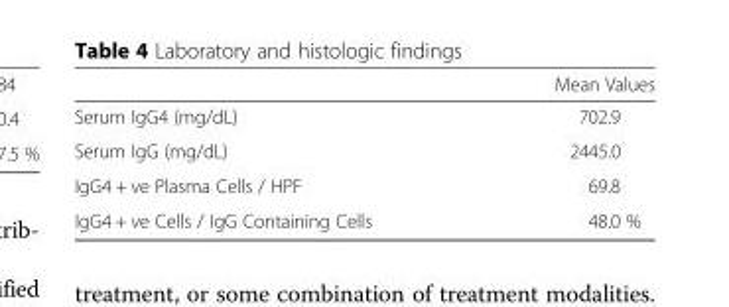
<table><thead><tr><td></td><td>Mean Values</td></tr></thead><tbody><tr><td>Serum IgG4 (mg/dL)</td><td>702.9</td></tr><tr><td>Serum IgG (mg/dL)</td><td>2445.0</td></tr><tr><td>IgG4 + ve Plasma Cells / HPF</td><td>69.8</td></tr><tr><td>IgG4 + ve Cells / IgG Containing Cells</td><td>48.0 %</td></tr></tbody></table>